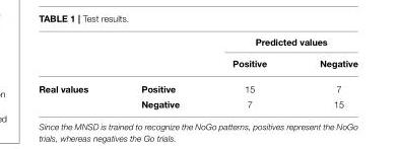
<table><thead><tr><td rowspan="2"></td><td rowspan="2"></td><td colspan="2">Predicted values</td></tr><tr><td>Positive</td><td>Negative</td></tr></thead><tbody><tr><td rowspan="2">Real values</td><td>Positive</td><td>15</td><td>7</td></tr><tr><td>Negative</td><td>7</td><td>15</td></tr></tbody></table>